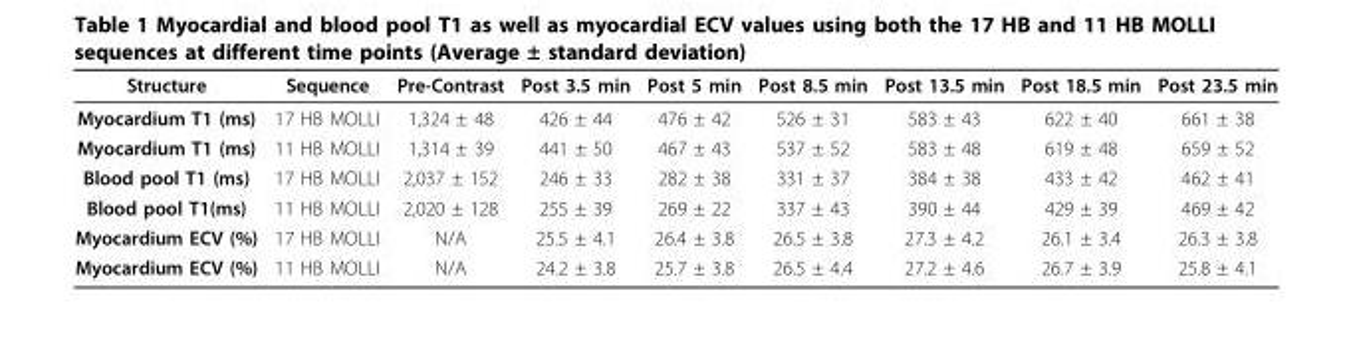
<table><thead><tr><td>Structure</td><td>Sequence</td><td>Pre-Contrast</td><td>Post 3.5 min</td><td>Post 5 min</td><td>Post 8.5 min</td><td>Post 13.5 min</td><td>Post 18.5 min</td><td>Post 23.5 min</td></tr></thead><tbody><tr><td>Myocardium T1 (ms)</td><td>17 HB MOLLI</td><td>1,324 ± 48</td><td>426 ± 44</td><td>476 ± 42</td><td>526 ± 31</td><td>583 ± 43</td><td>622 ± 40</td><td>661 ± 38</td></tr><tr><td>Myocardium T1 (ms)</td><td>11 HB MOLLI</td><td>1,314 ± 39</td><td>441 ± 50</td><td>467 ± 43</td><td>537 ± 52</td><td>583 ± 48</td><td>619 ± 48</td><td>659 ± 52</td></tr><tr><td>Blood pool T1 (ms)</td><td>17 HB MOLLI</td><td>2,037 ± 152</td><td>246 ± 33</td><td>282 ± 38</td><td>331 ± 37</td><td>384 ± 38</td><td>433 ± 42</td><td>462 ± 41</td></tr><tr><td>Blood pool T1(ms)</td><td>11 HB MOLLI</td><td>2,020 ± 128</td><td>255 ± 39</td><td>269 ± 22</td><td>337 ± 43</td><td>390 ± 44</td><td>429 ± 39</td><td>469 ± 42</td></tr><tr><td>Myocardium ECV (%)</td><td>17 HB MOLLI</td><td>N/A</td><td>25.5 ± 4.1</td><td>26.4 ± 3.8</td><td>26.5 ± 3.8</td><td>27.3 ± 4.2</td><td>26.1 ± 3.4</td><td>26.3 ± 3.8</td></tr><tr><td>Myocardium ECV (%)</td><td>11 HB MOLLI</td><td>N/A</td><td>24.2 ± 3.8</td><td>25.7 ± 3.8</td><td>26.5 ± 4.4</td><td>27.2 ± 4.6</td><td>26.7 ± 3.9</td><td>25.8 ± 4.1</td></tr></tbody></table>